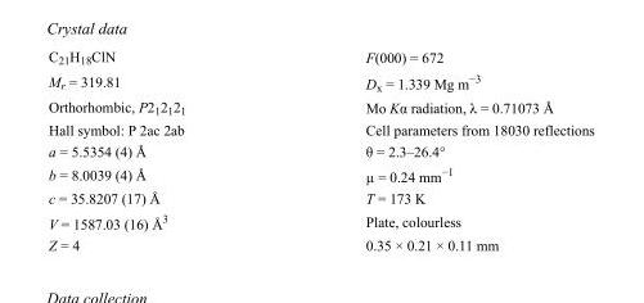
<table><tbody><tr><td>C<sub>21</sub>H<sub>18</sub>ClN</td><td>F(000) = 672</td></tr><tr><td>M<sub>r</sub> = 319.81</td><td>D<sub>x</sub> = 1.339 Mg m<sup>−3</sup></td></tr><tr><td>Orthorhombic, P2<sub>1</sub>2<sub>1</sub>2<sub>1</sub></td><td>Mo Kα radiation, λ = 0.71073 Å</td></tr><tr><td>Hall symbol: P 2ac 2ab</td><td>Cell parameters from 18030 reflections</td></tr><tr><td>a = 5.5354 (4) Å</td><td>θ = 2.3–26.4°</td></tr><tr><td>b = 8.0039 (4) Å</td><td>µ = 0.24 mm<sup>−1</sup></td></tr><tr><td>c = 35.8207 (17) Å</td><td>T = 173 K</td></tr><tr><td>V = 1587.03 (16) Å<sup>3</sup></td><td>Plate, colourless</td></tr><tr><td>Z = 4</td><td>0.35 × 0.21 × 0.11 mm</td></tr></tbody></table>